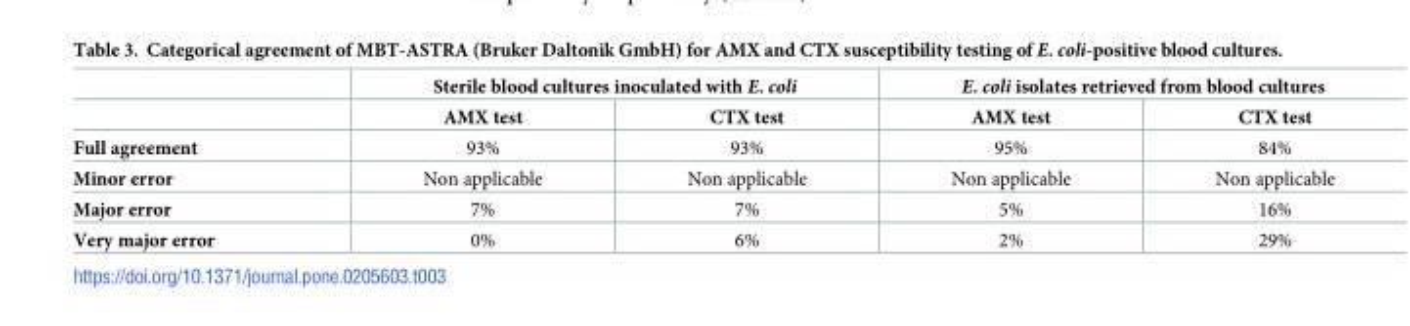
<table><thead><tr><td rowspan="2"></td><td colspan="2">Sterile blood cultures inoculated with E. coli</td><td colspan="2">E. coli isolates retrieved from blood cultures</td></tr><tr><td>AMX test</td><td>CTX test</td><td>AMX test</td><td>CTX test</td></tr></thead><tbody><tr><td>Full agreement</td><td>93%</td><td>93%</td><td>95%</td><td>84%</td></tr><tr><td>Minor error</td><td>Non applicable</td><td>Non applicable</td><td>Non applicable</td><td>Non applicable</td></tr><tr><td>Major error</td><td>7%</td><td>7%</td><td>5%</td><td>16%</td></tr><tr><td>Very major error</td><td>0%</td><td>6%</td><td>2%</td><td>29%</td></tr></tbody></table>